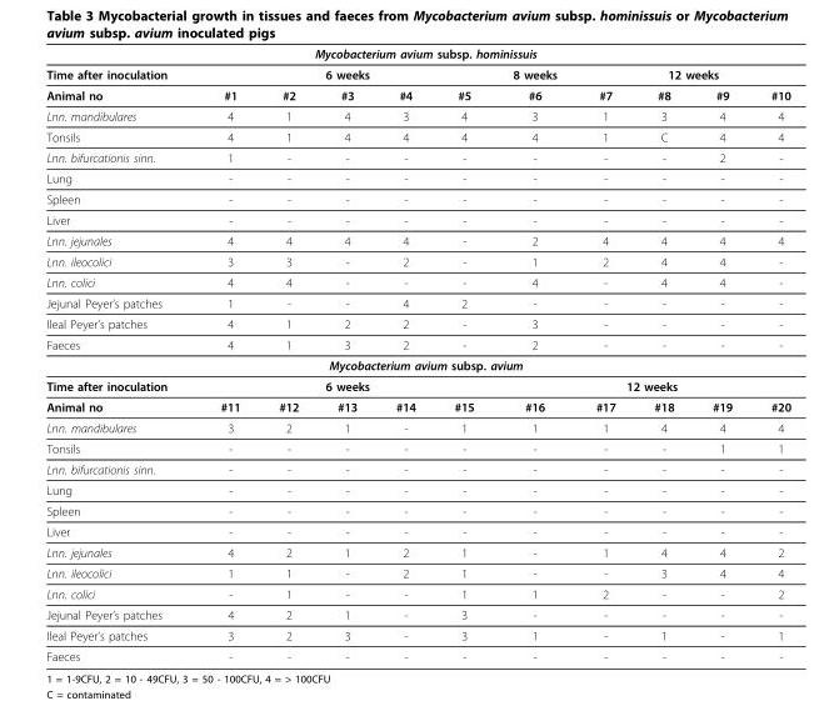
<table><thead><tr><td colspan="11">Mycobacterium avium subsp. hominissuis</td></tr><tr><td rowspan="2">Time after inoculation Animal no</td><td colspan="5">6 weeks</td><td rowspan="2">8 weeks #6</td><td colspan="4">12 weeks</td></tr><tr><td>#1</td><td>#2</td><td>#3</td><td>#4</td><td>#5</td><td>#7</td><td>#8</td><td>#9</td><td>#10</td></tr></thead><tbody><tr><td>Lnn. mandibulares</td><td>4</td><td>1</td><td>4</td><td>3</td><td>4</td><td>3</td><td>1</td><td>3</td><td>4</td><td>4</td></tr><tr><td>Tonsils</td><td>4</td><td>1</td><td>4</td><td>4</td><td>4</td><td>4</td><td>1</td><td>C</td><td>4</td><td>4</td></tr><tr><td>Lnn. bifurcationis sinn.</td><td>1</td><td>-</td><td>-</td><td>-</td><td>-</td><td>-</td><td>-</td><td>-</td><td>2</td><td>-</td></tr><tr><td>Lung</td><td>-</td><td>-</td><td>-</td><td>-</td><td>-</td><td>-</td><td>-</td><td>-</td><td>-</td><td>-</td></tr><tr><td>Spleen</td><td>-</td><td>-</td><td>-</td><td>-</td><td>-</td><td>-</td><td>-</td><td>-</td><td>-</td><td>-</td></tr><tr><td>Liver</td><td>-</td><td>-</td><td>-</td><td>-</td><td>-</td><td>-</td><td>-</td><td>-</td><td>-</td><td>-</td></tr><tr><td>Lnn. jejunales</td><td>4</td><td>4</td><td>4</td><td>4</td><td>-</td><td>2</td><td>4</td><td>4</td><td>4</td><td>4</td></tr><tr><td>Lnn. ileocolici</td><td>3</td><td>3</td><td>-</td><td>2</td><td>-</td><td>1</td><td>2</td><td>4</td><td>4</td><td>-</td></tr><tr><td>Lnn. colici</td><td>4</td><td>4</td><td>-</td><td>-</td><td>-</td><td>4</td><td>-</td><td>4</td><td>4</td><td>-</td></tr><tr><td>Jejunal Peyer’s patches</td><td>1</td><td>-</td><td>-</td><td>4</td><td>2</td><td>-</td><td>-</td><td>-</td><td>-</td><td>-</td></tr><tr><td>Ileal Peyer’s patches</td><td>4</td><td>1</td><td>2</td><td>2</td><td>-</td><td>3</td><td>-</td><td>-</td><td>-</td><td>-</td></tr><tr><td>Faeces</td><td>4</td><td>1</td><td>3</td><td>2</td><td>-</td><td>2</td><td>-</td><td>-</td><td>-</td><td>-</td></tr><tr><td colspan="11">Mycobacterium avium subsp. avium</td></tr><tr><td>Time after inoculation</td><td colspan="5">6 weeks</td><td colspan="5">12 weeks</td></tr><tr><td>Animal no</td><td>#11</td><td>#12</td><td>#13</td><td>#14</td><td>#15</td><td>#16</td><td>#17</td><td>#18</td><td>#19</td><td>#20</td></tr><tr><td>Lnn. mandibulares</td><td>3</td><td>2</td><td>1</td><td>-</td><td>1</td><td>1</td><td>1</td><td>4</td><td>4</td><td>4</td></tr><tr><td>Tonsils</td><td>-</td><td>-</td><td>-</td><td>-</td><td>-</td><td>-</td><td>-</td><td>-</td><td>1</td><td>1</td></tr><tr><td>Lnn. bifurcationis sinn.</td><td>-</td><td>-</td><td>-</td><td>-</td><td>-</td><td>-</td><td>-</td><td>-</td><td>-</td><td>-</td></tr><tr><td>Lung</td><td>-</td><td>-</td><td>-</td><td>-</td><td>-</td><td>-</td><td>-</td><td>-</td><td>-</td><td>-</td></tr><tr><td>Spleen</td><td>-</td><td>-</td><td>-</td><td>-</td><td>-</td><td>-</td><td>-</td><td>-</td><td>-</td><td>-</td></tr><tr><td>Liver</td><td>-</td><td>-</td><td>-</td><td>-</td><td>-</td><td>-</td><td>-</td><td>-</td><td>-</td><td>-</td></tr><tr><td>Lnn. jejunales</td><td>4</td><td>2</td><td>1</td><td>2</td><td>1</td><td>-</td><td>1</td><td>4</td><td>4</td><td>2</td></tr><tr><td>Lnn. ileocolici</td><td>1</td><td>1</td><td>-</td><td>2</td><td>1</td><td>-</td><td>-</td><td>3</td><td>4</td><td>4</td></tr><tr><td>Lnn. colici</td><td>-</td><td>1</td><td>-</td><td>-</td><td>1</td><td>1</td><td>2</td><td>-</td><td>-</td><td>2</td></tr><tr><td>Jejunal Peyer’s patches</td><td>4</td><td>2</td><td>1</td><td>-</td><td>3</td><td>-</td><td>-</td><td>-</td><td>-</td><td>-</td></tr><tr><td>Ileal Peyer’s patches</td><td>3</td><td>2</td><td>3</td><td>-</td><td>3</td><td>1</td><td>-</td><td>1</td><td>-</td><td>1</td></tr><tr><td>Faeces</td><td>-</td><td>-</td><td>-</td><td>-</td><td>-</td><td>-</td><td>-</td><td>-</td><td>-</td><td>-</td></tr></tbody></table>